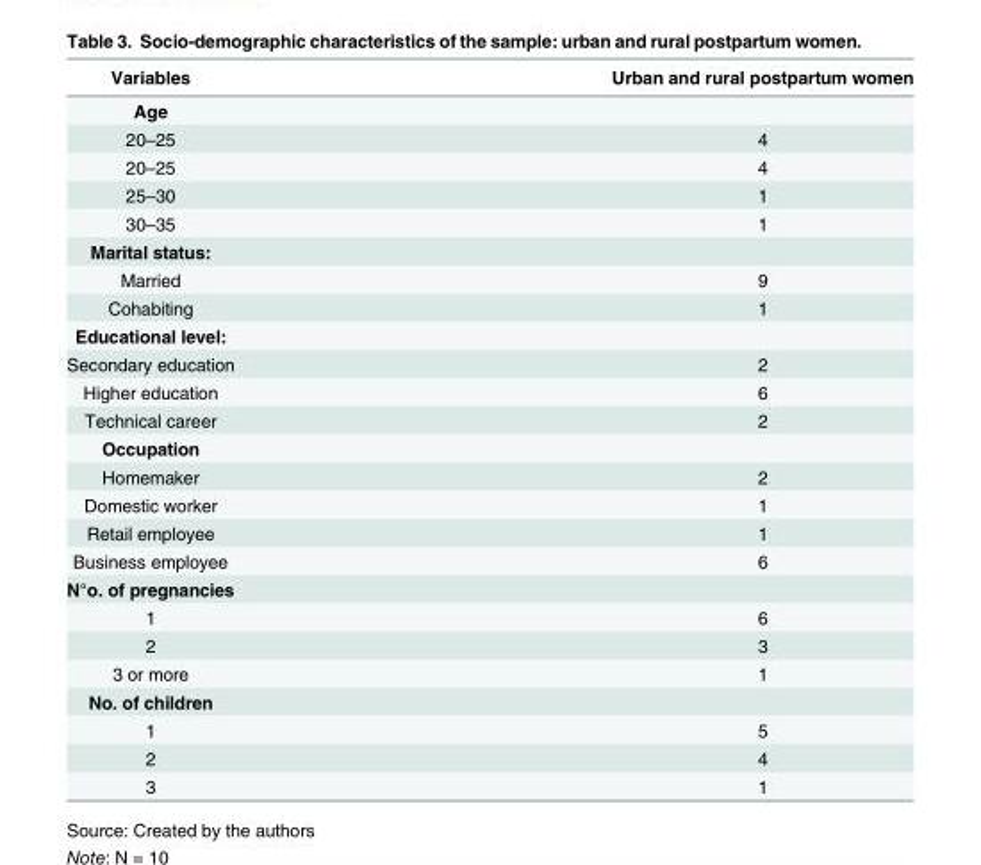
<table><thead><tr><td>Variables</td><td>Urban and rural postpartum women</td></tr></thead><tbody><tr><td colspan="2">Age</td></tr><tr><td>20–25</td><td>4</td></tr><tr><td>20–25</td><td>4</td></tr><tr><td>25–30</td><td>1</td></tr><tr><td>30–35</td><td>1</td></tr><tr><td colspan="2">Marital status:</td></tr><tr><td>Married</td><td>9</td></tr><tr><td>Cohabiting</td><td>1</td></tr><tr><td colspan="2">Educational level:</td></tr><tr><td>Secondary education</td><td>2</td></tr><tr><td>Higher education</td><td>6</td></tr><tr><td>Technical career</td><td>2</td></tr><tr><td colspan="2">Occupation</td></tr><tr><td>Homemaker</td><td>2</td></tr><tr><td>Domestic worker</td><td>1</td></tr><tr><td>Retail employee</td><td>1</td></tr><tr><td>Business employee</td><td>6</td></tr><tr><td colspan="2">N°o. of pregnancies</td></tr><tr><td>1</td><td>6</td></tr><tr><td>2</td><td>3</td></tr><tr><td>3 or more</td><td>1</td></tr><tr><td colspan="2">No. of children</td></tr><tr><td>1</td><td>5</td></tr><tr><td>2</td><td>4</td></tr><tr><td>3</td><td>1</td></tr></tbody></table>